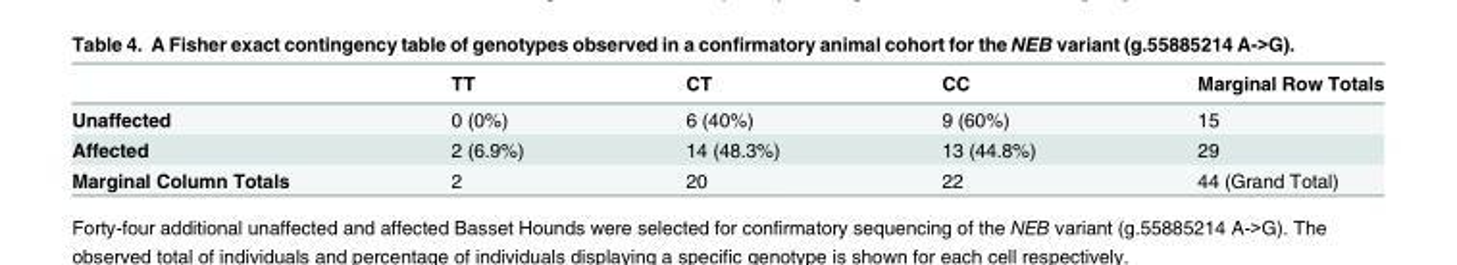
<table><thead><tr><td></td><td>TT</td><td>CT</td><td>CC</td><td>Marginal Row Totals</td></tr></thead><tbody><tr><td>Unaffected</td><td>0 (0%)</td><td>6 (40%)</td><td>9 (60%)</td><td>15</td></tr><tr><td>Affected</td><td>2 (6.9%)</td><td>14 (48.3%)</td><td>13 (44.8%)</td><td>29</td></tr><tr><td>Marginal Column Totals</td><td>2</td><td>20</td><td>22</td><td>44 (Grand Total)</td></tr></tbody></table>